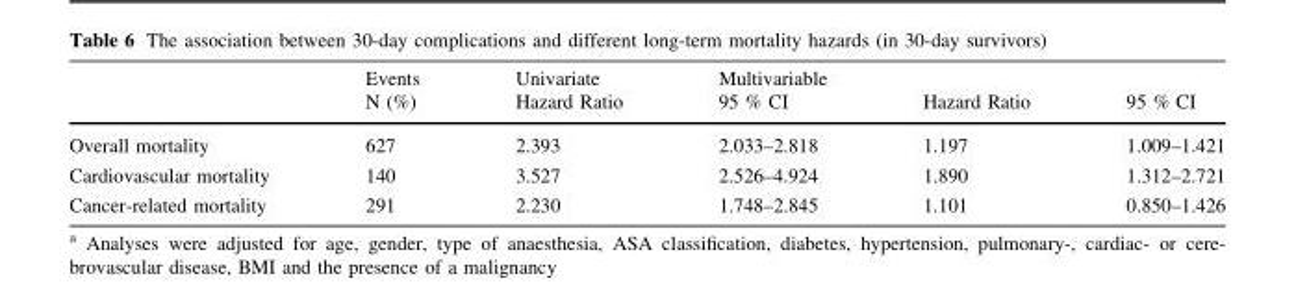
<table><thead><tr><td rowspan="2"></td><td rowspan="2">Events N (%)</td><td rowspan="2">Univariate Hazard Ratio</td><td rowspan="2">Multivariable 95 % CI</td><td rowspan="2">Hazard Ratio</td><td rowspan="2">95 % CI</td></tr><tr></tr></thead><tbody><tr><td>Overall mortality</td><td>627</td><td>2.393</td><td>2.033–2.818</td><td>1.197</td><td>1.009–1.421</td></tr><tr><td>Cardiovascular mortality</td><td>140</td><td>3.527</td><td>2.526–4.924</td><td>1.890</td><td>1.312–2.721</td></tr><tr><td>Cancer-related mortality</td><td>291</td><td>2.230</td><td>1.748–2.845</td><td>1.101</td><td>0.850–1.426</td></tr></tbody></table>